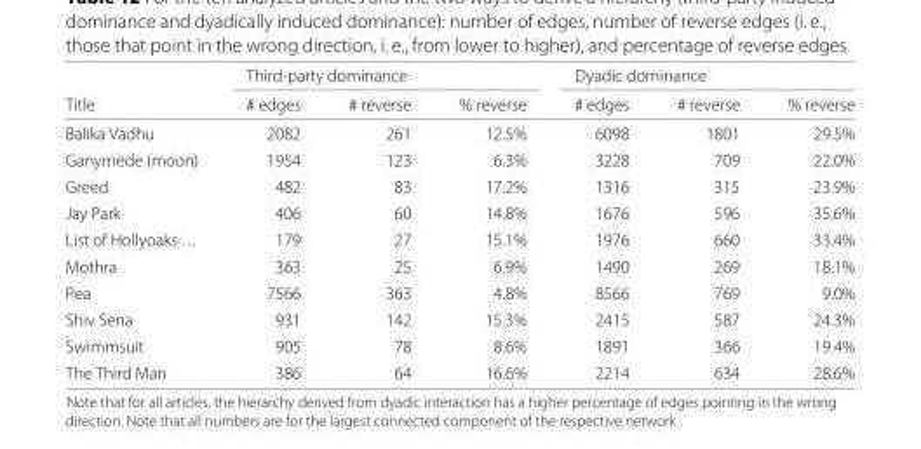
<table><thead><tr><td rowspan="2">Title</td><td colspan="3">Third-party dominance</td><td colspan="3">Dyadic dominance</td></tr><tr><td># edges</td><td># reverse</td><td>% reverse</td><td># edges</td><td># reverse</td><td>% reverse</td></tr></thead><tbody><tr><td>Balika Vadhu</td><td>2082</td><td>261</td><td>12.5%</td><td>6098</td><td>1801</td><td>29.5%</td></tr><tr><td>Ganymede (moon)</td><td>1954</td><td>123</td><td>6.3%</td><td>3228</td><td>709</td><td>22.0%</td></tr><tr><td>Greed</td><td>482</td><td>83</td><td>17.2%</td><td>1316</td><td>315</td><td>23.9%</td></tr><tr><td>Jay Park</td><td>406</td><td>60</td><td>14.8%</td><td>1676</td><td>596</td><td>35.6%</td></tr><tr><td>List of Hollyoaks ...</td><td>179</td><td>27</td><td>15.1%</td><td>1976</td><td>660</td><td>33.4%</td></tr><tr><td>Mothra</td><td>363</td><td>25</td><td>6.9%</td><td>1490</td><td>269</td><td>18.1%</td></tr><tr><td>Pea</td><td>7566</td><td>363</td><td>4.8%</td><td>8566</td><td>769</td><td>9.0%</td></tr><tr><td>Shiv Sena</td><td>931</td><td>142</td><td>15.3%</td><td>2415</td><td>587</td><td>24.3%</td></tr><tr><td>Swimmsuit</td><td>905</td><td>78</td><td>8.6%</td><td>1891</td><td>366</td><td>19.4%</td></tr><tr><td>The Third Man</td><td>386</td><td>64</td><td>16.6%</td><td>2214</td><td>634</td><td>28.6%</td></tr></tbody></table>